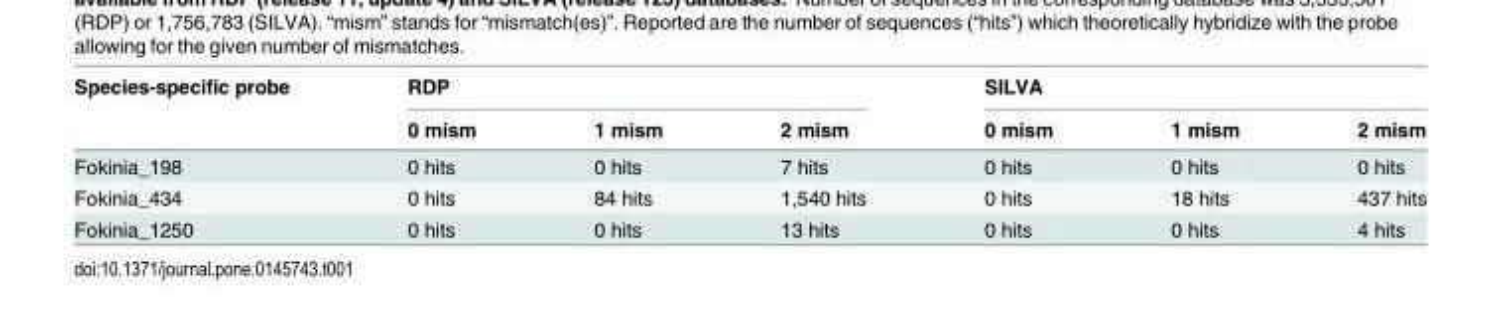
<table><thead><tr><td rowspan="2">Species-specific probe</td><td colspan="3">RDP</td><td colspan="3">SILVA</td></tr><tr><td>0 mism</td><td>1 mism</td><td>2 mism</td><td>0 mism</td><td>1 mism</td><td>2 mism</td></tr></thead><tbody><tr><td>Fokinia_198</td><td>0 hits</td><td>0 hits</td><td>7 hits</td><td>0 hits</td><td>0 hits</td><td>0 hits</td></tr><tr><td>Fokinia_434</td><td>0 hits</td><td>84 hits</td><td>1,540 hits</td><td>0 hits</td><td>18 hits</td><td>437 hits</td></tr><tr><td>Fokinia_1250</td><td>0 hits</td><td>0 hits</td><td>13 hits</td><td>0 hits</td><td>0 hits</td><td>4 hits</td></tr></tbody></table>